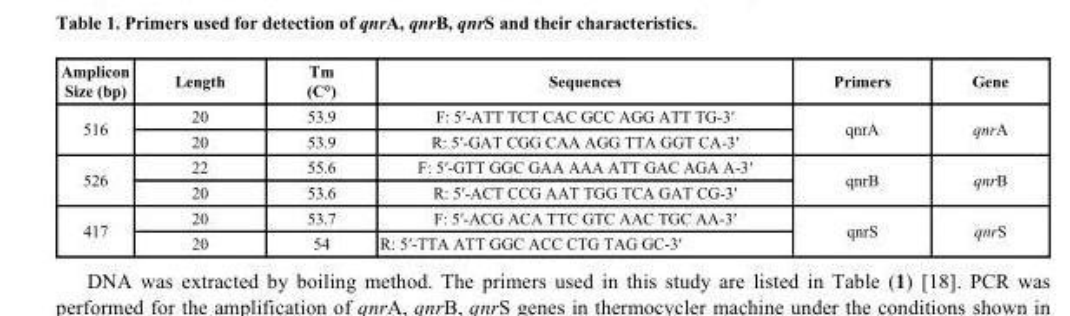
<table><thead><tr><td>Amplicon Size (bp)</td><td>Length</td><td>Tm (C°)</td><td>Sequences</td><td>Primers</td><td>Gene</td></tr></thead><tbody><tr><td rowspan="2">516</td><td>20</td><td>53.9</td><td>F: 5′-ATT TCT CAC GCC AGG ATT TG-3′</td><td rowspan="2">qnrA</td><td rowspan="2">qnrA</td></tr><tr><td>20</td><td>53.9</td><td>R: 5′-GAT CGG CAA AGG TTA GGT CA-3′</td></tr><tr><td rowspan="2">526</td><td>22</td><td>55.6</td><td>F: 5′-GTT GGC GAA AAA ATT GAC AGA A-3′</td><td rowspan="2">qnrB</td><td rowspan="2">qnrB</td></tr><tr><td>20</td><td>53.6</td><td>R: 5′-ACT CCG AAT TGG TCA GAT CG-3′</td></tr><tr><td rowspan="2">417</td><td>20</td><td>53.7</td><td>F: 5′-ACG ACA TTC GTC AAC TGC AA-3′</td><td rowspan="2">qnrS</td><td rowspan="2">qnrS</td></tr><tr><td>20</td><td>54</td><td>R: 5′-TTA ATT GGC ACC CTG TAG GC-3′</td></tr></tbody></table>